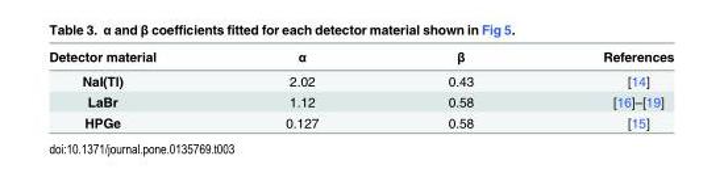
<table><thead><tr><td>Detector material</td><td>α</td><td>β</td><td>References</td></tr></thead><tbody><tr><td>NaI(Tl)</td><td>2.02</td><td>0.43</td><td>[14]</td></tr><tr><td>LaBr</td><td>1.12</td><td>0.58</td><td>[16]–[19]</td></tr><tr><td>HPGe</td><td>0.127</td><td>0.58</td><td>[15]</td></tr></tbody></table>